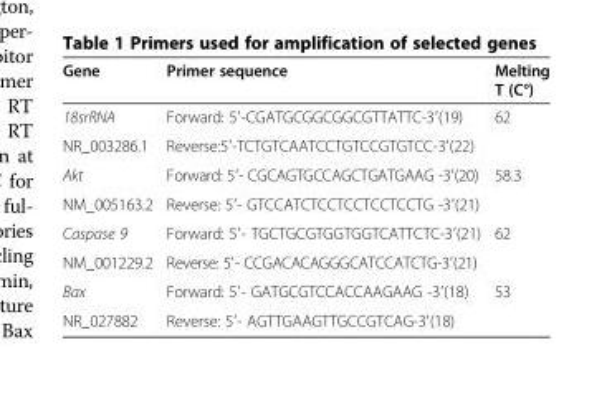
<table><thead><tr><td>Gene</td><td>Primer sequence</td><td>Melting T (C°)</td></tr></thead><tbody><tr><td>18srRNA</td><td>Forward: 5′-CGATGCGGCGGCGTTATTC-3′(19)</td><td rowspan="2">62</td></tr><tr><td>NR_003286.1</td><td>Reverse:5′-TCTGTCAATCCTGTCCGTGTCC-3′(22)</td></tr><tr><td>Akt</td><td>Forward: 5′- CGCAGTGCCAGCTGATGAAG -3′(20)</td><td rowspan="2">58.3</td></tr><tr><td>NM_005163.2</td><td>Reverse: 5′- GTCCATCTCCTCCTCCTCCTG -3′(21)</td></tr><tr><td>Caspase 9</td><td>Forward: 5′- TGCTGCGTGGTGGTCATTCTC-3′(21)</td><td rowspan="2">62</td></tr><tr><td>NM_001229.2</td><td>Reverse: 5′- CCGACACAGGGCATCCATCTG-3′(21)</td></tr><tr><td>Bax</td><td>Forward: 5′- GATGCGTCCACCAAGAAG -3′(18)</td><td rowspan="2">53</td></tr><tr><td>NR_027882</td><td>Reverse: 5′- AGTTGAAGTTGCCGTCAG-3′(18)</td></tr></tbody></table>